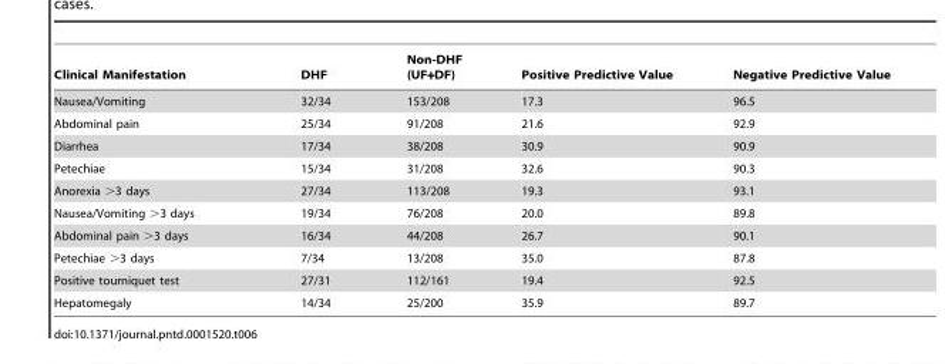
<table><thead><tr><td>Clinical Manifestation</td><td>DHF</td><td>Non-DHF (UF+DF)</td><td>Positive Predictive Value</td><td>Negative Predictive Value</td></tr></thead><tbody><tr><td>Nausea/Vomiting</td><td>32/34</td><td>153/208</td><td>17.3</td><td>96.5</td></tr><tr><td>Abdominal pain</td><td>25/34</td><td>91/208</td><td>21.6</td><td>92.9</td></tr><tr><td>Diarrhea</td><td>17/34</td><td>38/208</td><td>30.9</td><td>90.9</td></tr><tr><td>Petechiae</td><td>15/34</td><td>31/208</td><td>32.6</td><td>90.3</td></tr><tr><td>Anorexia &gt;3 days</td><td>27/34</td><td>113/208</td><td>19.3</td><td>93.1</td></tr><tr><td>Nausea/Vomiting &gt;3 days</td><td>19/34</td><td>76/208</td><td>20.0</td><td>89.8</td></tr><tr><td>Abdominal pain &gt;3 days</td><td>16/34</td><td>44/208</td><td>26.7</td><td>90.1</td></tr><tr><td>Petechiae &gt;3 days</td><td>7/34</td><td>13/208</td><td>35.0</td><td>87.8</td></tr><tr><td>Positive tourniquet test</td><td>27/31</td><td>112/161</td><td>19.4</td><td>92.5</td></tr><tr><td>Hepatomegaly</td><td>14/34</td><td>25/200</td><td>35.9</td><td>89.7</td></tr></tbody></table>